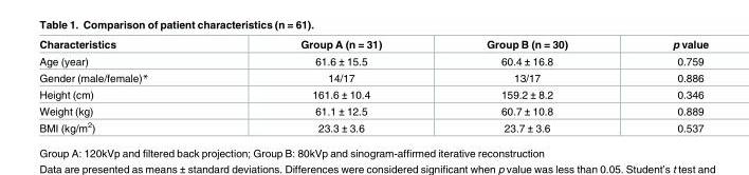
<table><thead><tr><td>Characteristics</td><td>Group A (n = 31)</td><td>Group B (n = 30)</td><td>p value</td></tr></thead><tbody><tr><td>Age (year)</td><td>61.6 ± 15.5</td><td>60.4 ± 16.8</td><td>0.759</td></tr><tr><td>Gender (male/female)*</td><td>14/17</td><td>13/17</td><td>0.886</td></tr><tr><td>Height (cm)</td><td>161.6 ± 10.4</td><td>159.2 ± 8.2</td><td>0.346</td></tr><tr><td>Weight (kg)</td><td>61.1 ± 12.5</td><td>60.7 ± 10.8</td><td>0.889</td></tr><tr><td>BMI (kg/m<sup>2</sup>)</td><td>23.3 ± 3.6</td><td>23.7 ± 3.6</td><td>0.537</td></tr></tbody></table>